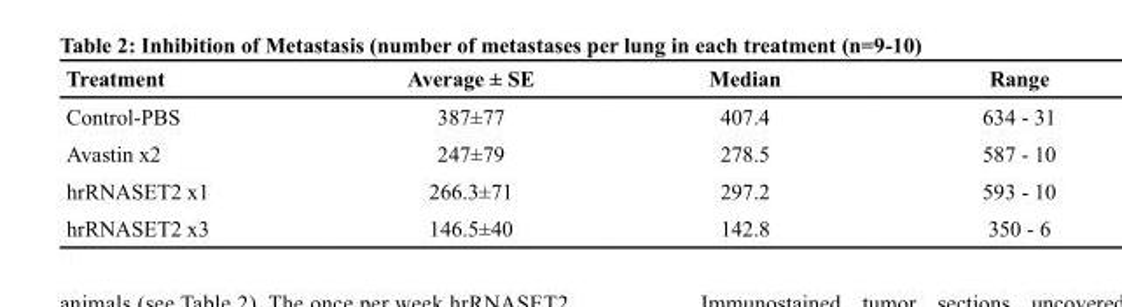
<table><thead><tr><td>Treatment</td><td>Average ± SE</td><td>Median</td><td>Range</td></tr></thead><tbody><tr><td>Control-PBS</td><td>387±77</td><td>407.4</td><td>634 - 31</td></tr><tr><td>Avastin x2</td><td>247±79</td><td>278.5</td><td>587 - 10</td></tr><tr><td>hrRNASET2 x1</td><td>266.3±71</td><td>297.2</td><td>593 - 10</td></tr><tr><td>hrRNASET2 x3</td><td>146.5±40</td><td>142.8</td><td>350 - 6</td></tr></tbody></table>